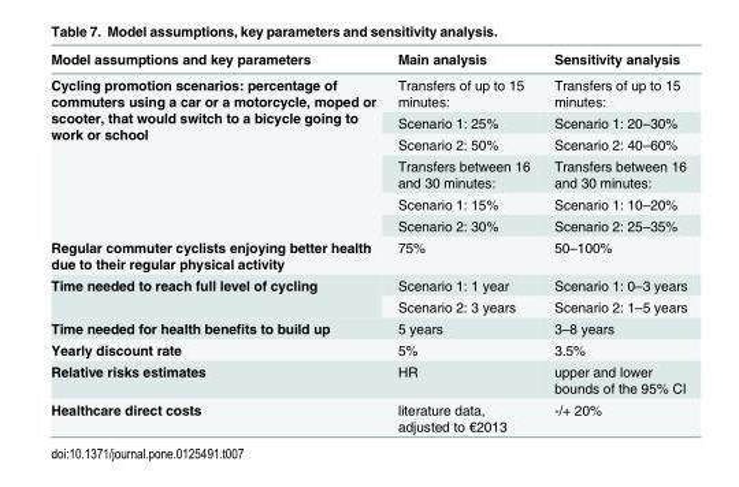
<table><thead><tr><td>Model assumptions and key parameters</td><td>Main analysis</td><td>Sensitivity analysis</td></tr></thead><tbody><tr><td rowspan="6">Cycling promotion scenarios: percentage of commuters using a car or a motorcycle, moped or scooter, that would switch to a bicycle going to work or school</td><td>Transfers of up to 15 minutes:</td><td>Transfers of up to 15 minutes:</td></tr><tr><td>Scenario 1: 25%</td><td>Scenario 1: 20–30%</td></tr><tr><td>Scenario 2: 50%</td><td>Scenario 2: 40–60%</td></tr><tr><td>Transfers between 16 and 30 minutes:</td><td>Transfers between 16 and 30 minutes:</td></tr><tr><td>Scenario 1: 15%</td><td>Scenario 1: 10–20%</td></tr><tr><td>Scenario 2: 30%</td><td>Scenario 2: 25–35%</td></tr><tr><td>Regular commuter cyclists enjoying better health due to their regular physical activity</td><td>75%</td><td>50–100%</td></tr><tr><td rowspan="2">Time needed to reach full level of cycling</td><td>Scenario 1: 1 year</td><td>Scenario 1: 0–3 years</td></tr><tr><td>Scenario 2: 3 years</td><td>Scenario 2: 1–5 years</td></tr><tr><td>Time needed for health benefits to build up</td><td>5 years</td><td>3–8 years</td></tr><tr><td>Yearly discount rate</td><td>5%</td><td>3.5%</td></tr><tr><td>Relative risks estimates</td><td>HR</td><td>upper and lower bounds of the 95% CI</td></tr><tr><td>Healthcare direct costs</td><td>literature data, adjusted to €2013</td><td>-/+ 20%</td></tr></tbody></table>